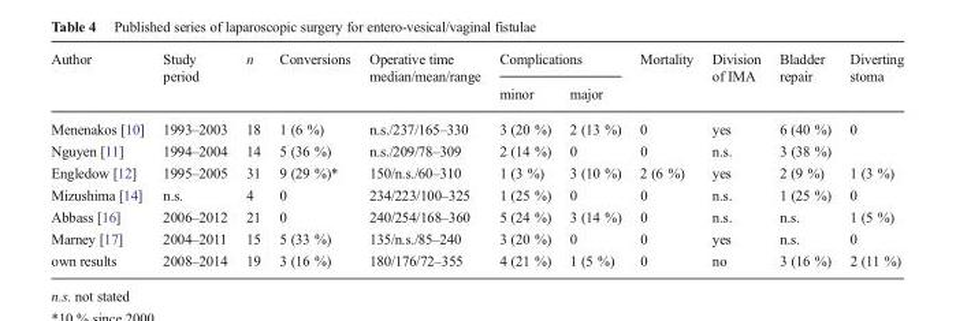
<table><thead><tr><td rowspan="2">Author</td><td rowspan="2">Study period</td><td rowspan="2">n</td><td rowspan="2">Conversions</td><td rowspan="2">Operative time median/mean/range</td><td colspan="2">Complications</td><td rowspan="2">Mortality</td><td rowspan="2">Division of IMA</td><td rowspan="2">Bladder repair</td><td rowspan="2">Diverting stoma</td></tr><tr><td>minor</td><td>major</td></tr></thead><tbody><tr><td>Menenakos [10]</td><td>1993–2003</td><td>18</td><td>1 (6 %)</td><td>n.s./237/165–330</td><td>3 (20 %)</td><td>2 (13 %)</td><td>0</td><td>yes</td><td>6 (40 %)</td><td>0</td></tr><tr><td>Nguyen [11]</td><td>1994–2004</td><td>14</td><td>5 (36 %)</td><td>n.s./209/78–309</td><td>2 (14 %)</td><td>0</td><td>0</td><td>n.s.</td><td>3 (38 %)</td><td></td></tr><tr><td>Engledow [12]</td><td>1995–2005</td><td>31</td><td>9 (29 %)*</td><td>150/n.s./60–310</td><td>1 (3 %)</td><td>3 (10 %)</td><td>2 (6 %)</td><td>yes</td><td>2 (9 %)</td><td>1 (3 %)</td></tr><tr><td>Mizushima [14]</td><td>n.s.</td><td>4</td><td>0</td><td>234/223/100–325</td><td>1 (25 %)</td><td>0</td><td>0</td><td>n.s.</td><td>1 (25 %)</td><td>0</td></tr><tr><td>Abbass [16]</td><td>2006–2012</td><td>21</td><td>0</td><td>240/254/168–360</td><td>5 (24 %)</td><td>3 (14 %)</td><td>0</td><td>n.s.</td><td>n.s.</td><td>1 (5 %)</td></tr><tr><td>Marney [17]</td><td>2004–2011</td><td>15</td><td>5 (33 %)</td><td>135/n.s./85–240</td><td>3 (20 %)</td><td>0</td><td>0</td><td>yes</td><td>n.s.</td><td>0</td></tr><tr><td>own results</td><td>2008–2014</td><td>19</td><td>3 (16 %)</td><td>180/176/72–355</td><td>4 (21 %)</td><td>1 (5 %)</td><td>0</td><td>no</td><td>3 (16 %)</td><td>2 (11 %)</td></tr></tbody></table>